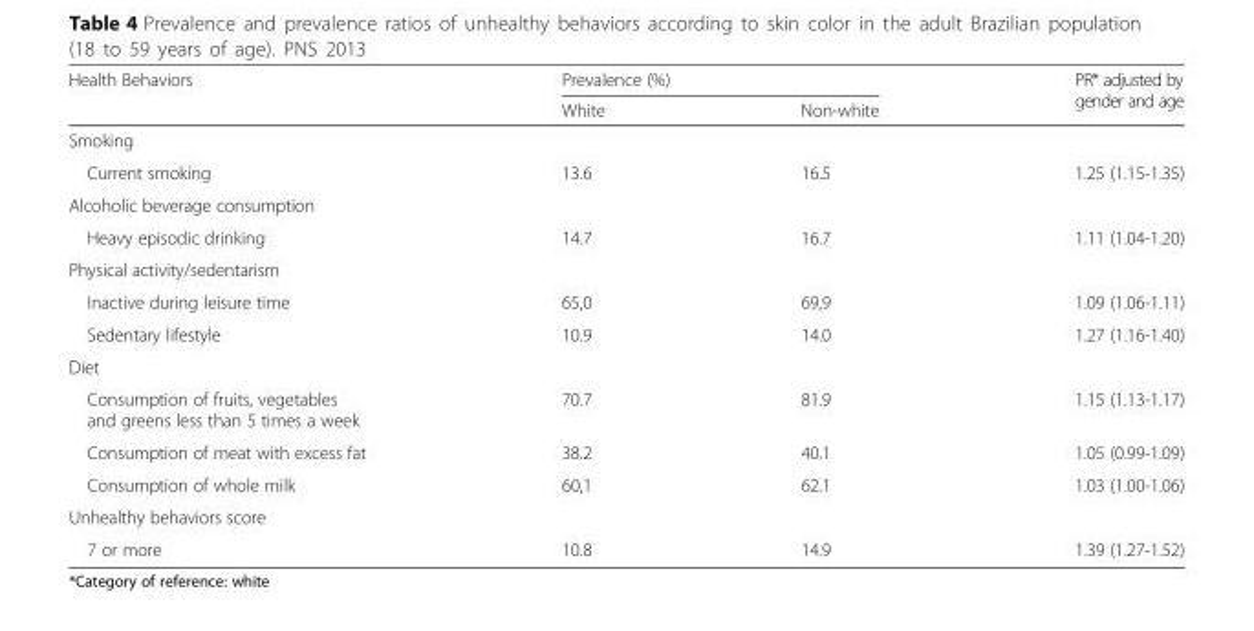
<table><thead><tr><td rowspan="2">Health Behaviors</td><td colspan="2">Prevalence (%)</td><td rowspan="2">PR* adjusted by gender and age</td></tr><tr><td>White</td><td>Non-white</td></tr></thead><tbody><tr><td colspan="4">Smoking</td></tr><tr><td>Current smoking</td><td>13.6</td><td>16.5</td><td>1.25 (1.15-1.35)</td></tr><tr><td colspan="4">Alcoholic beverage consumption</td></tr><tr><td>Heavy episodic drinking</td><td>14.7</td><td>16.7</td><td>1.11 (1.04-1.20)</td></tr><tr><td colspan="4">Physical activity/sedentarism</td></tr><tr><td>Inactive during leisure time</td><td>65,0</td><td>69,9</td><td>1.09 (1.06-1.11)</td></tr><tr><td>Sedentary lifestyle</td><td>10.9</td><td>14.0</td><td>1.27 (1.16-1.40)</td></tr><tr><td colspan="4">Diet</td></tr><tr><td>Consumption of fruits, vegetables and greens less than 5 times a week</td><td>70.7</td><td>81.9</td><td>1.15 (1.13-1.17)</td></tr><tr><td>Consumption of meat with excess fat</td><td>38.2</td><td>40.1</td><td>1.05 (0.99-1.09)</td></tr><tr><td>Consumption of whole milk</td><td>60,1</td><td>62.1</td><td>1.03 (1.00-1.06)</td></tr><tr><td colspan="4">Unhealthy behaviors score</td></tr><tr><td>7 or more</td><td>10.8</td><td>14.9</td><td>1.39 (1.27-1.52)</td></tr></tbody></table>